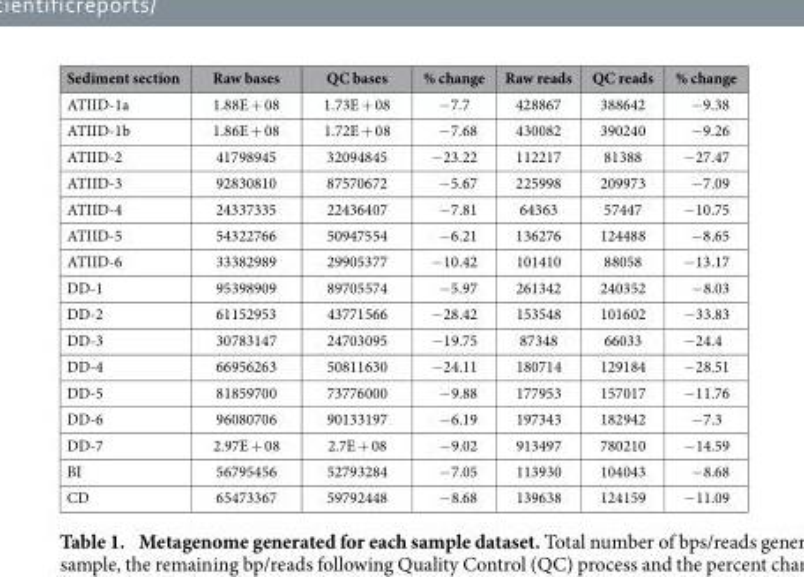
<table><thead><tr><td>Sediment section</td><td>Raw bases</td><td>QC bases</td><td>% change</td><td>Raw reads</td><td>QC reads</td><td>% change</td></tr></thead><tbody><tr><td>ATIID-1a</td><td>1.88E + 08</td><td>1.73E + 08</td><td>−7.7</td><td>428867</td><td>388642</td><td>−9.38</td></tr><tr><td>ATIID-1b</td><td>1.86E + 08</td><td>1.72E + 08</td><td>−7.68</td><td>430082</td><td>390240</td><td>−9.26</td></tr><tr><td>ATIID-2</td><td>41798945</td><td>32094845</td><td>−23.22</td><td>112217</td><td>81388</td><td>−27.47</td></tr><tr><td>ATIID-3</td><td>92830810</td><td>87570672</td><td>−5.67</td><td>225998</td><td>209973</td><td>−7.09</td></tr><tr><td>ATIID-4</td><td>24337335</td><td>22436407</td><td>−7.81</td><td>64363</td><td>57447</td><td>−10.75</td></tr><tr><td>ATIID-5</td><td>54322766</td><td>50947554</td><td>−6.21</td><td>136276</td><td>124488</td><td>−8.65</td></tr><tr><td>ATIID-6</td><td>33382989</td><td>29905377</td><td>−10.42</td><td>101410</td><td>88058</td><td>−13.17</td></tr><tr><td>DD-1</td><td>95398909</td><td>89705574</td><td>−5.97</td><td>261342</td><td>240352</td><td>−8.03</td></tr><tr><td>DD-2</td><td>61152953</td><td>43771566</td><td>−28.42</td><td>153548</td><td>101602</td><td>−33.83</td></tr><tr><td>DD-3</td><td>30783147</td><td>24703095</td><td>−19.75</td><td>87348</td><td>66033</td><td>−24.4</td></tr><tr><td>DD-4</td><td>66956263</td><td>50811630</td><td>−24.11</td><td>180714</td><td>129184</td><td>−28.51</td></tr><tr><td>DD-5</td><td>81859700</td><td>73776000</td><td>−9.88</td><td>177953</td><td>157017</td><td>−11.76</td></tr><tr><td>DD-6</td><td>96080706</td><td>90133197</td><td>−6.19</td><td>197343</td><td>182942</td><td>−7.3</td></tr><tr><td>DD-7</td><td>2.97E + 08</td><td>2.7E + 08</td><td>−9.02</td><td>913497</td><td>780210</td><td>−14.59</td></tr><tr><td>BI</td><td>56795456</td><td>52793284</td><td>−7.05</td><td>113930</td><td>104043</td><td>−8.68</td></tr><tr><td>CD</td><td>65473367</td><td>59792448</td><td>−8.68</td><td>139638</td><td>124159</td><td>−11.09</td></tr></tbody></table>